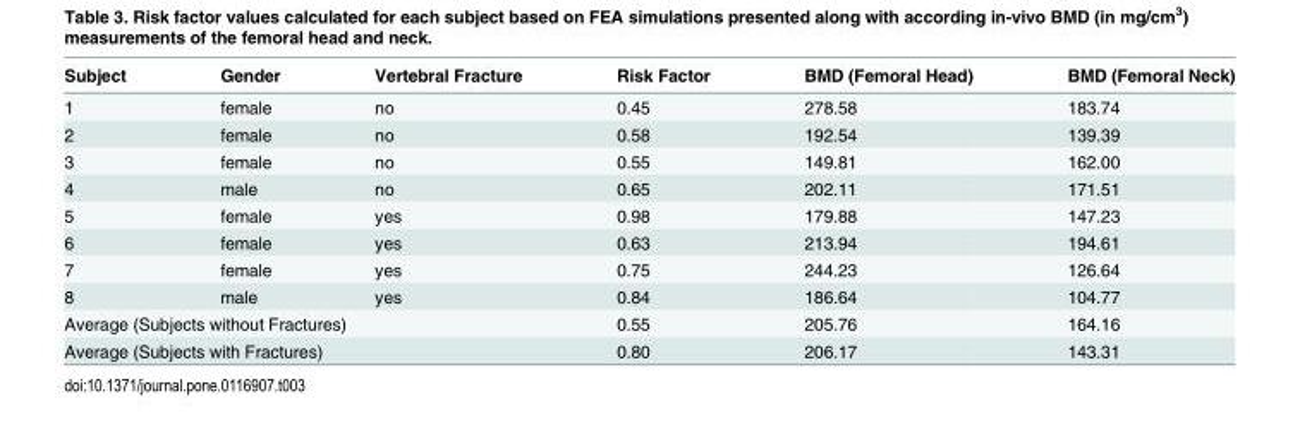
<table><thead><tr><td>Subject</td><td>Gender</td><td>Vertebral Fracture</td><td>Risk Factor</td><td>BMD (Femoral Head)</td><td>BMD (Femoral Neck)</td></tr></thead><tbody><tr><td>1</td><td>female</td><td>no</td><td>0.45</td><td>278.58</td><td>183.74</td></tr><tr><td>2</td><td>female</td><td>no</td><td>0.58</td><td>192.54</td><td>139.39</td></tr><tr><td>3</td><td>female</td><td>no</td><td>0.55</td><td>149.81</td><td>162.00</td></tr><tr><td>4</td><td>male</td><td>no</td><td>0.65</td><td>202.11</td><td>171.51</td></tr><tr><td>5</td><td>female</td><td>yes</td><td>0.98</td><td>179.88</td><td>147.23</td></tr><tr><td>6</td><td>female</td><td>yes</td><td>0.63</td><td>213.94</td><td>194.61</td></tr><tr><td>7</td><td>female</td><td>yes</td><td>0.75</td><td>244.23</td><td>126.64</td></tr><tr><td>8</td><td>male</td><td>yes</td><td>0.84</td><td>186.64</td><td>104.77</td></tr><tr><td colspan="3">Average (Subjects without Fractures)</td><td>0.55</td><td>205.76</td><td>164.16</td></tr><tr><td colspan="3">Average (Subjects with Fractures)</td><td>0.80</td><td>206.17</td><td>143.31</td></tr></tbody></table>